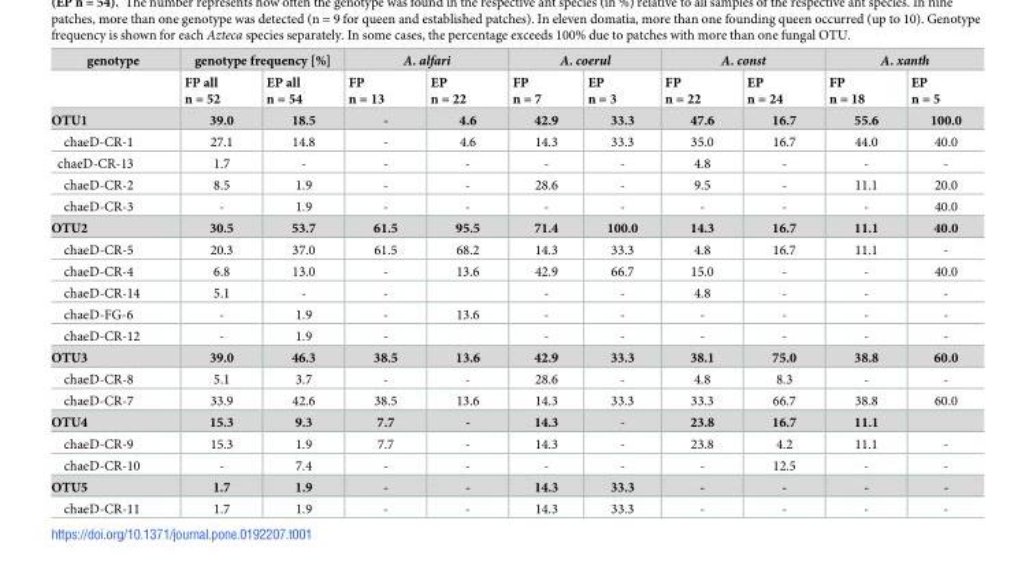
<table><thead><tr><td rowspan="2">genotype</td><td colspan="2">genotype frequency [%]</td><td colspan="2">A. alfari</td><td colspan="2">A. coerul</td><td colspan="2">A. const</td><td colspan="2">A. xanth</td></tr><tr><td>FP all n = 52</td><td>EP all n = 54</td><td>FP n = 13</td><td>EP n = 22</td><td>FP n = 7</td><td>EP n = 3</td><td>FP n = 22</td><td>EP n = 24</td><td>FP n = 18</td><td>EP n = 5</td></tr></thead><tbody><tr><td>OTU1</td><td>39.0</td><td>18.5</td><td>-</td><td>4.6</td><td>42.9</td><td>33.3</td><td>47.6</td><td>16.7</td><td>55.6</td><td>100.0</td></tr><tr><td>chaeD-CR-1</td><td>27.1</td><td>14.8</td><td>-</td><td>4.6</td><td>14.3</td><td>33.3</td><td>35.0</td><td>16.7</td><td>44.0</td><td>40.0</td></tr><tr><td>chaeD-CR-13</td><td>1.7</td><td>-</td><td>-</td><td>-</td><td>-</td><td>-</td><td>4.8</td><td>-</td><td>-</td><td>-</td></tr><tr><td>chaeD-CR-2</td><td>8.5</td><td>1.9</td><td>-</td><td>-</td><td>28.6</td><td>-</td><td>9.5</td><td>-</td><td>11.1</td><td>20.0</td></tr><tr><td>chaeD-CR-3</td><td>-</td><td>1.9</td><td>-</td><td>-</td><td>-</td><td>-</td><td>-</td><td>-</td><td>-</td><td>40.0</td></tr><tr><td>OTU2</td><td>30.5</td><td>53.7</td><td>61.5</td><td>95.5</td><td>71.4</td><td>100.0</td><td>14.3</td><td>16.7</td><td>11.1</td><td>40.0</td></tr><tr><td>chaeD-CR-5</td><td>20.3</td><td>37.0</td><td>61.5</td><td>68.2</td><td>14.3</td><td>33.3</td><td>4.8</td><td>16.7</td><td>11.1</td><td>-</td></tr><tr><td>chaeD-CR-4</td><td>6.8</td><td>13.0</td><td>-</td><td>13.6</td><td>42.9</td><td>66.7</td><td>15.0</td><td>-</td><td>-</td><td>40.0</td></tr><tr><td>chaeD-CR-14</td><td>5.1</td><td>-</td><td>-</td><td></td><td>-</td><td>-</td><td>4.8</td><td>-</td><td>-</td><td>-</td></tr><tr><td>chaeD-FG-6</td><td>-</td><td>1.9</td><td>-</td><td>13.6</td><td>-</td><td>-</td><td>-</td><td>-</td><td>-</td><td>-</td></tr><tr><td>chaeD-CR-12</td><td>-</td><td>1.9</td><td>-</td><td></td><td>-</td><td>-</td><td>-</td><td>-</td><td>-</td><td>-</td></tr><tr><td>OTU3</td><td>39.0</td><td>46.3</td><td>38.5</td><td>13.6</td><td>42.9</td><td>33.3</td><td>38.1</td><td>75.0</td><td>38.8</td><td>60.0</td></tr><tr><td>chaeD-CR-8</td><td>5.1</td><td>3.7</td><td>-</td><td>-</td><td>28.6</td><td>-</td><td>4.8</td><td>8.3</td><td>-</td><td>-</td></tr><tr><td>chaeD-CR-7</td><td>33.9</td><td>42.6</td><td>38.5</td><td>13.6</td><td>14.3</td><td>33.3</td><td>33.3</td><td>66.7</td><td>38.8</td><td>60.0</td></tr><tr><td>OTU4</td><td>15.3</td><td>9.3</td><td>7.7</td><td>-</td><td>14.3</td><td>-</td><td>23.8</td><td>16.7</td><td>11.1</td><td></td></tr><tr><td>chaeD-CR-9</td><td>15.3</td><td>1.9</td><td>7.7</td><td>-</td><td>14.3</td><td>-</td><td>23.8</td><td>4.2</td><td>11.1</td><td>-</td></tr><tr><td>chaeD-CR-10</td><td>-</td><td>7.4</td><td>-</td><td>-</td><td>-</td><td>-</td><td>-</td><td>12.5</td><td>-</td><td>-</td></tr><tr><td>OTU5</td><td>1.7</td><td>1.9</td><td>-</td><td>-</td><td>14.3</td><td>33.3</td><td>-</td><td>-</td><td>-</td><td>-</td></tr><tr><td>chaeD-CR-11</td><td>1.7</td><td>1.9</td><td>-</td><td>-</td><td>14.3</td><td>33.3</td><td>-</td><td>-</td><td>-</td><td>-</td></tr></tbody></table>